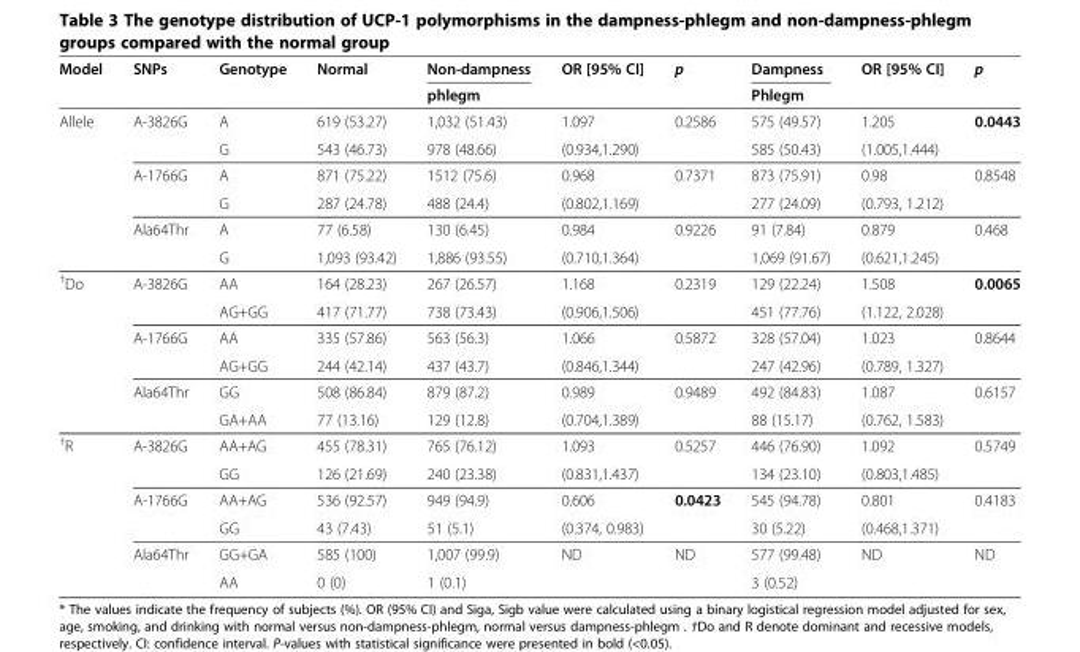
<table><thead><tr><td rowspan="2">Model</td><td rowspan="2">SNPs</td><td rowspan="2">Genotype</td><td rowspan="2">Normal</td><td rowspan="2">Non-dampness phlegm</td><td rowspan="2">OR [95% CI]</td><td rowspan="2">p</td><td rowspan="2">Dampness Phlegm</td><td rowspan="2">OR [95% CI]</td><td rowspan="2">p</td></tr><tr></tr></thead><tbody><tr><td rowspan="6">Allele</td><td>A-3826G</td><td>A</td><td>619 (53.27)</td><td>1,032 (51.43)</td><td>1.097</td><td>0.2586</td><td>575 (49.57)</td><td>1.205</td><td>0.0443</td></tr><tr><td></td><td>G</td><td>543 (46.73)</td><td>978 (48.66)</td><td>(0.934,1.290)</td><td></td><td>585 (50.43)</td><td>(1.005,1.444)</td><td></td></tr><tr><td>A-1766G</td><td>A</td><td>871 (75.22)</td><td>1512 (75.6)</td><td>0.968</td><td rowspan="2">0.7371</td><td>873 (75.91)</td><td>0.98</td><td rowspan="2">0.8548</td></tr><tr><td></td><td>G</td><td>287 (24.78)</td><td>488 (24.4)</td><td>(0.802,1.169)</td><td>277 (24.09)</td><td>(0.793, 1.212)</td></tr><tr><td>Ala64Thr</td><td>A</td><td>77 (6.58)</td><td>130 (6.45)</td><td>0.984</td><td rowspan="2">0.9226</td><td>91 (7.84)</td><td>0.879</td><td rowspan="2">0.468</td></tr><tr><td></td><td>G</td><td>1,093 (93.42)</td><td>1,886 (93.55)</td><td>(0.710,1.364)</td><td>1,069 (91.67)</td><td>(0.621,1.245)</td></tr><tr><td rowspan="6"><sup>†</sup>Do</td><td>A-3826G</td><td>AA</td><td>164 (28.23)</td><td>267 (26.57)</td><td>1.168</td><td rowspan="2">0.2319</td><td>129 (22.24)</td><td>1.508</td><td rowspan="2">0.0065</td></tr><tr><td></td><td>AG+GG</td><td>417 (71.77)</td><td>738 (73.43)</td><td>(0.906,1.506)</td><td>451 (77.76)</td><td>(1.122, 2.028)</td></tr><tr><td>A-1766G</td><td>AA</td><td>335 (57.86)</td><td>563 (56.3)</td><td>1.066</td><td rowspan="2">0.5872</td><td>328 (57.04)</td><td>1.023</td><td rowspan="2">0.8644</td></tr><tr><td></td><td>AG+GG</td><td>244 (42.14)</td><td>437 (43.7)</td><td>(0.846,1.344)</td><td>247 (42.96)</td><td>(0.789, 1.327)</td></tr><tr><td>Ala64Thr</td><td>GG</td><td>508 (86.84)</td><td>879 (87.2)</td><td>0.989</td><td rowspan="2">0.9489</td><td>492 (84.83)</td><td>1.087</td><td rowspan="2">0.6157</td></tr><tr><td></td><td>GA+AA</td><td>77 (13.16)</td><td>129 (12.8)</td><td>(0.704,1.389)</td><td>88 (15.17)</td><td>(0.762, 1.583)</td></tr><tr><td rowspan="6"><sup>†</sup>R</td><td>A-3826G</td><td>AA+AG</td><td>455 (78.31)</td><td>765 (76.12)</td><td>1.093</td><td rowspan="2">0.5257</td><td>446 (76.90)</td><td>1.092</td><td rowspan="2">0.5749</td></tr><tr><td></td><td>GG</td><td>126 (21.69)</td><td>240 (23.38)</td><td>(0.831,1.437)</td><td>134 (23.10)</td><td>(0.803,1.485)</td></tr><tr><td>A-1766G</td><td>AA+AG</td><td>536 (92.57)</td><td>949 (94.9)</td><td>0.606</td><td rowspan="2">0.0423</td><td>545 (94.78)</td><td>0.801</td><td rowspan="2">0.4183</td></tr><tr><td></td><td>GG</td><td>43 (7.43)</td><td>51 (5.1)</td><td>(0.374, 0.983)</td><td>30 (5.22)</td><td>(0.468,1.371)</td></tr><tr><td>Ala64Thr</td><td>GG+GA</td><td>585 (100)</td><td>1,007 (99.9)</td><td>ND</td><td rowspan="2">ND</td><td>577 (99.48)</td><td>ND</td><td rowspan="2">ND</td></tr><tr><td></td><td>AA</td><td>0 (0)</td><td>1 (0.1)</td><td></td><td>3 (0.52)</td><td></td></tr></tbody></table>